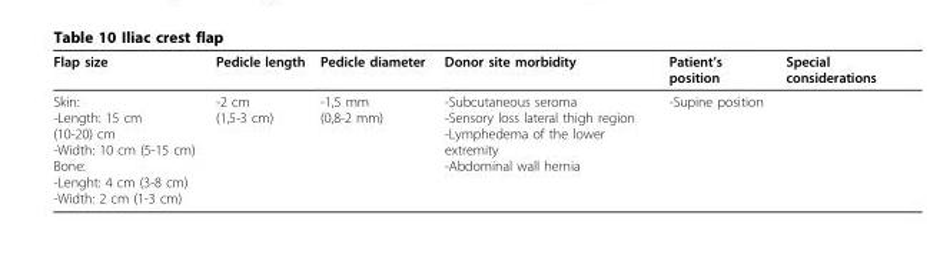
<table><thead><tr><td>Flap size</td><td>Pedicle length</td><td>Pedicle diameter</td><td>Donor site morbidity</td><td>Patient’s position</td><td>Special considerations</td></tr></thead><tbody><tr><td>Skin: -Length: 15 cm (10-20) cm -Width: 10 cm (5-15 cm) Bone: -Lenght: 4 cm (3-8 cm) -Width: 2 cm (1-3 cm)</td><td>-2 cm (1,5-3 cm)</td><td>-1,5 mm (0,8-2 mm)</td><td>-Subcutaneous seroma -Sensory loss lateral thigh region -Lymphedema of the lower extremity -Abdominal wall hernia</td><td>-Supine position</td><td></td></tr></tbody></table>